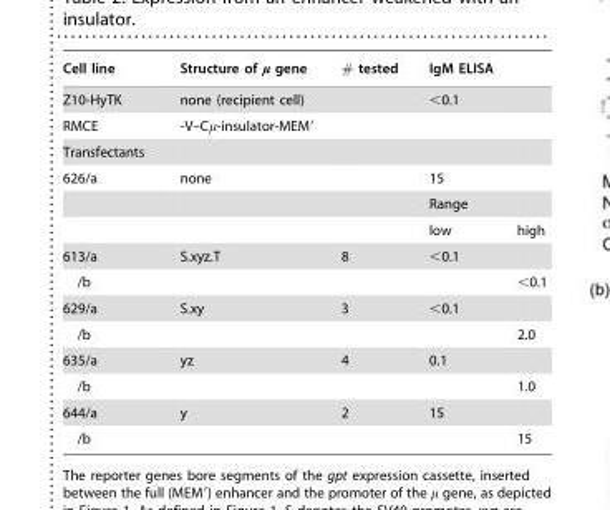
<table><thead><tr><td rowspan="3">Cell line Z10-HyTK RMCE</td><td rowspan="3">Structure of μ gene none (recipient cell) -V–Cμ-insulator-MEM′</td><td rowspan="3"># tested</td><td rowspan="2" colspan="2">IgM ELISA &lt;0.1</td></tr><tr></tr><tr><td></td><td></td></tr></thead><tbody><tr><td colspan="5">Transfectants</td></tr><tr><td rowspan="3">626/a</td><td>none</td><td></td><td>15</td><td></td></tr><tr><td></td><td></td><td>Range</td><td></td></tr><tr><td></td><td></td><td>low</td><td>high</td></tr><tr><td>613/a</td><td>S.xyz.T</td><td>8</td><td>&lt;0.1</td><td></td></tr><tr><td>/b</td><td></td><td></td><td></td><td>&lt;0.1</td></tr><tr><td>629/a</td><td>S.xy</td><td>3</td><td>&lt;0.1</td><td></td></tr><tr><td>/b</td><td></td><td></td><td></td><td>2.0</td></tr><tr><td>635/a</td><td>yz</td><td>4</td><td>0.1</td><td></td></tr><tr><td>/b</td><td></td><td></td><td></td><td>1.0</td></tr><tr><td>644/a</td><td>y</td><td>2</td><td>15</td><td></td></tr><tr><td>/b</td><td></td><td></td><td></td><td>15</td></tr></tbody></table>